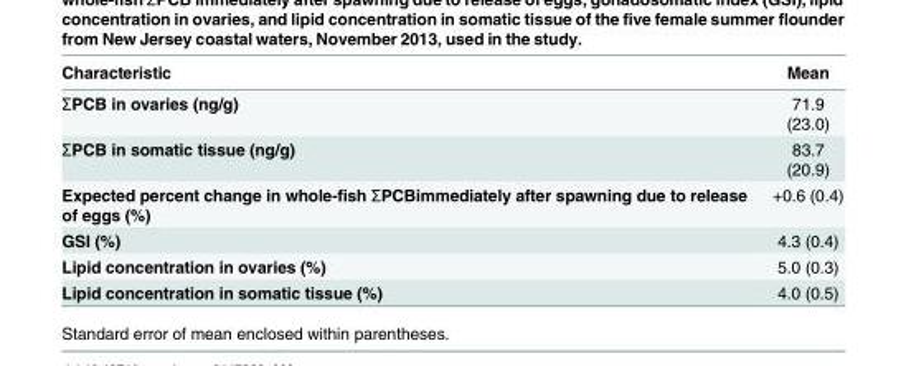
<table><thead><tr><td>Characteristic</td><td>Mean</td></tr></thead><tbody><tr><td>ƩPCB in ovaries (ng/g)</td><td>71.9 (23.0)</td></tr><tr><td>ƩPCB in somatic tissue (ng/g)</td><td>83.7 (20.9)</td></tr><tr><td>Expected percent change in whole-fish ƩPCBimmediately after spawning due to release of eggs (%)</td><td>+0.6 (0.4)</td></tr><tr><td>GSI (%)</td><td>4.3 (0.4)</td></tr><tr><td>Lipid concentration in ovaries (%)</td><td>5.0 (0.3)</td></tr><tr><td>Lipid concentration in somatic tissue (%)</td><td>4.0 (0.5)</td></tr></tbody></table>